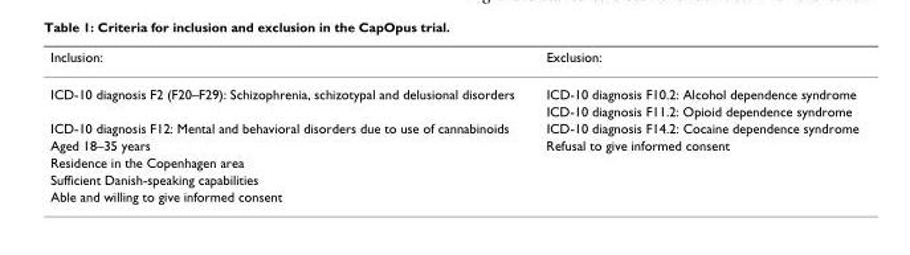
<table><thead><tr><td>Inclusion:</td><td>Exclusion:</td></tr></thead><tbody><tr><td rowspan="2">ICD-10 diagnosis F2 (F20–F29): Schizophrenia, schizotypal and delusional disorders</td><td>ICD-10 diagnosis F10.2: Alcohol dependence syndrome</td></tr><tr><td>ICD-10 diagnosis F11.2: Opioid dependence syndrome</td></tr><tr><td>ICD-10 diagnosis F12: Mental and behavioral disorders due to use of cannabinoids</td><td>ICD-10 diagnosis F14.2: Cocaine dependence syndrome</td></tr><tr><td>Aged 18–35 years</td><td>Refusal to give informed consent</td></tr><tr><td colspan="2">Residence in the Copenhagen area</td></tr><tr><td colspan="2">Sufficient Danish-speaking capabilities</td></tr><tr><td>Able and willing to give informed consent</td><td></td></tr></tbody></table>